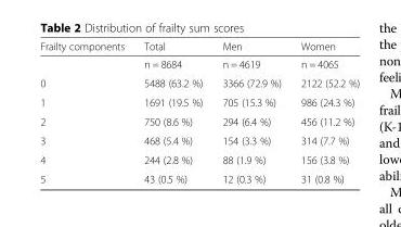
<table><thead><tr><td>Frailty components</td><td>Total</td><td>Men</td><td>Women</td></tr></thead><tbody><tr><td></td><td>n = 8684</td><td>n = 4619</td><td>n = 4065</td></tr><tr><td>0</td><td>5488 (63.2 %)</td><td>3366 (72.9 %)</td><td>2122 (52.2 %)</td></tr><tr><td>1</td><td>1691 (19.5 %)</td><td>705 (15.3 %)</td><td>986 (24.3 %)</td></tr><tr><td>2</td><td>750 (8.6 %)</td><td>294 (6.4 %)</td><td>456 (11.2 %)</td></tr><tr><td>3</td><td>468 (5.4 %)</td><td>154 (3.3 %)</td><td>314 (7.7 %)</td></tr><tr><td>4</td><td>244 (2.8 %)</td><td>88 (1.9 %)</td><td>156 (3.8 %)</td></tr><tr><td>5</td><td>43 (0.5 %)</td><td>12 (0.3 %)</td><td>31 (0.8 %)</td></tr></tbody></table>